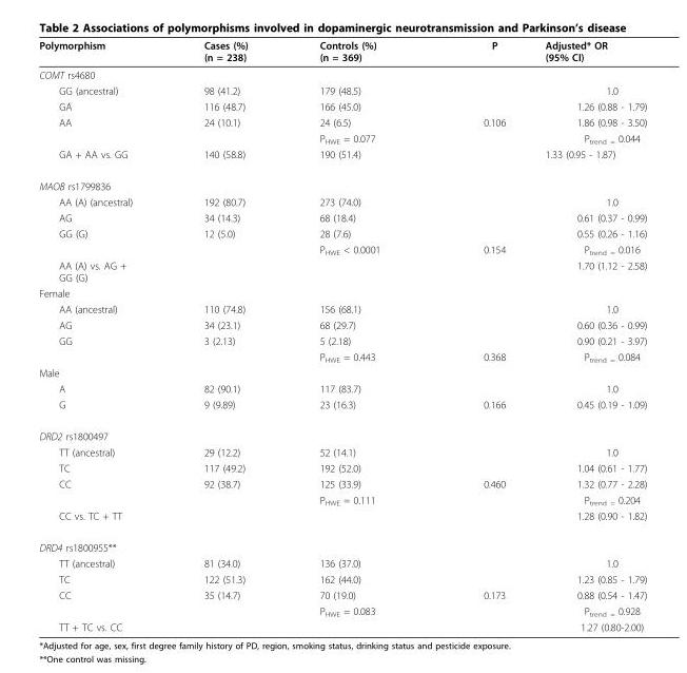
<table><thead><tr><td>Polymorphism</td><td>Cases (%) (n = 238)</td><td>Controls (%) (n = 369)</td><td>P</td><td>Adjusted* OR (95% CI)</td></tr></thead><tbody><tr><td colspan="5">COMT rs4680</td></tr><tr><td>GG (ancestral)</td><td>98 (41.2)</td><td>179 (48.5)</td><td></td><td>1.0</td></tr><tr><td>GA</td><td>116 (48.7)</td><td>166 (45.0)</td><td></td><td>1.26 (0.88 - 1.79)</td></tr><tr><td rowspan="2">AA</td><td>24 (10.1)</td><td>24 (6.5)</td><td>0.106</td><td>1.86 (0.98 - 3.50)</td></tr><tr><td></td><td>P<sub>HWE</sub> = 0.077</td><td></td><td>P<sub>trend =</sub> 0.044</td></tr><tr><td>GA + AA vs. GG</td><td>140 (58.8)</td><td>190 (51.4)</td><td></td><td>1.33 (0.95 - 1.87)</td></tr><tr><td colspan="5">MAOB rs1799836</td></tr><tr><td>AA (A) (ancestral)</td><td>192 (80.7)</td><td>273 (74.0)</td><td></td><td>1.0</td></tr><tr><td>AG</td><td>34 (14.3)</td><td>68 (18.4)</td><td></td><td>0.61 (0.37 - 0.99)</td></tr><tr><td rowspan="2">GG (G)</td><td>12 (5.0)</td><td>28 (7.6)</td><td></td><td>0.55 (0.26 - 1.16)</td></tr><tr><td></td><td>P<sub>HWE</sub> &lt; 0.0001</td><td>0.154</td><td>P<sub>trend =</sub> 0.016</td></tr><tr><td>AA (A) vs. AG + GG (G)</td><td></td><td></td><td></td><td>1.70 (1.12 - 2.58)</td></tr><tr><td colspan="5">Female</td></tr><tr><td>AA (ancestral)</td><td>110 (74.8)</td><td>156 (68.1)</td><td></td><td>1.0</td></tr><tr><td>AG</td><td>34 (23.1)</td><td>68 (29.7)</td><td></td><td>0.60 (0.36 - 0.99)</td></tr><tr><td rowspan="2">GG</td><td>3 (2.13)</td><td>5 (2.18)</td><td></td><td>0.90 (0.21 - 3.97)</td></tr><tr><td></td><td>P<sub>HWE</sub> = 0.443</td><td>0.368</td><td>P<sub>trend =</sub> 0.084</td></tr><tr><td colspan="5">Male</td></tr><tr><td>A</td><td>82 (90.1)</td><td>117 (83.7)</td><td></td><td>1.0</td></tr><tr><td>G</td><td>9 (9.89)</td><td>23 (16.3)</td><td>0.166</td><td>0.45 (0.19 - 1.09)</td></tr><tr><td colspan="5">DRD2 rs1800497</td></tr><tr><td>TT (ancestral)</td><td>29 (12.2)</td><td>52 (14.1)</td><td></td><td>1.0</td></tr><tr><td>TC</td><td>117 (49.2)</td><td>192 (52.0)</td><td></td><td>1.04 (0.61 - 1.77)</td></tr><tr><td rowspan="2">CC</td><td>92 (38.7)</td><td>125 (33.9)</td><td>0.460</td><td>1.32 (0.77 - 2.28)</td></tr><tr><td></td><td>P<sub>HWE</sub> = 0.111</td><td></td><td>P<sub>trend =</sub> 0.204</td></tr><tr><td>CC vs. TC + TT</td><td></td><td></td><td></td><td>1.28 (0.90 - 1.82)</td></tr><tr><td colspan="5">DRD4 rs1800955**</td></tr><tr><td>TT (ancestral)</td><td>81 (34.0)</td><td>136 (37.0)</td><td></td><td>1.0</td></tr><tr><td>TC</td><td>122 (51.3)</td><td>162 (44.0)</td><td></td><td>1.23 (0.85 - 1.79)</td></tr><tr><td rowspan="2">CC</td><td>35 (14.7)</td><td>70 (19.0)</td><td>0.173</td><td>0.88 (0.54 - 1.47)</td></tr><tr><td></td><td>P<sub>HWE</sub> = 0.083</td><td></td><td>P<sub>trend =</sub> 0.928</td></tr><tr><td>TT + TC vs. CC</td><td></td><td></td><td></td><td>1.27 (0.80-2.00)</td></tr></tbody></table>